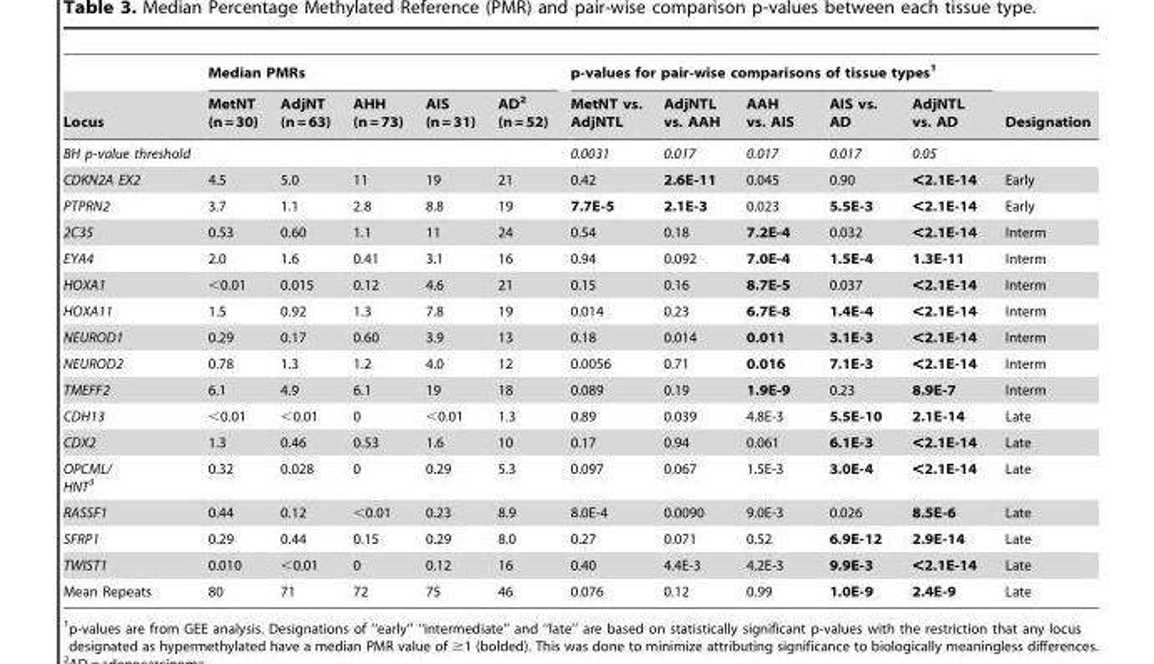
<table><thead><tr><td rowspan="2">Locus</td><td colspan="5">Median PMRs</td><td colspan="5">p-values for pair-wise comparisons of tissue types<sup>1</sup></td><td rowspan="2">Designation</td></tr><tr><td>MetNT (n = 30)</td><td>AdjNT (n = 63)</td><td>AHH (n = 73)</td><td>AIS (n = 31)</td><td>AD<sup>2</sup> (n = 52)</td><td>MetNT vs. AdjNTL</td><td>AdjNTL vs. AAH</td><td>AAH vs. AIS</td><td>AIS vs. AD</td><td>AdjNTL vs. AD</td></tr></thead><tbody><tr><td>BH p-value threshold</td><td></td><td></td><td></td><td></td><td></td><td>0.0031</td><td>0.017</td><td>0.017</td><td>0.017</td><td>0.05</td><td></td></tr><tr><td>CDKN2A EX2</td><td>4.5</td><td>5.0</td><td>11</td><td>19</td><td>21</td><td>0.42</td><td>2.6E-11</td><td>0.045</td><td>0.90</td><td>&lt;2.1E-14</td><td>Early</td></tr><tr><td>PTPRN2</td><td>3.7</td><td>1.1</td><td>2.8</td><td>8.8</td><td>19</td><td>7.7E-5</td><td>2.1E-3</td><td>0.023</td><td>5.5E-3</td><td>&lt;2.1E-14</td><td>Early</td></tr><tr><td>2C35</td><td>0.53</td><td>0.60</td><td>1.1</td><td>11</td><td>24</td><td>0.54</td><td>0.18</td><td>7.2E-4</td><td>0.032</td><td>&lt;2.1E-14</td><td>Interm</td></tr><tr><td>EYA4</td><td>2.0</td><td>1.6</td><td>0.41</td><td>3.1</td><td>16</td><td>0.94</td><td>0.092</td><td>7.0E-4</td><td>1.5E-4</td><td>1.3E-11</td><td>Interm</td></tr><tr><td>HOXA1</td><td>&lt;0.01</td><td>0.015</td><td>0.12</td><td>4.6</td><td>21</td><td>0.15</td><td>0.16</td><td>8.7E-5</td><td>0.037</td><td>&lt;2.1E-14</td><td>Interm</td></tr><tr><td>HOXA11</td><td>1.5</td><td>0.92</td><td>1.3</td><td>7.8</td><td>19</td><td>0.014</td><td>0.23</td><td>6.7E-8</td><td>1.4E-4</td><td>&lt;2.1E-14</td><td>Interm</td></tr><tr><td>NEUROD1</td><td>0.29</td><td>0.17</td><td>0.60</td><td>3.9</td><td>13</td><td>0.18</td><td>0.014</td><td>0.011</td><td>3.1E-3</td><td>&lt;2.1E-14</td><td>Interm</td></tr><tr><td>NEUROD2</td><td>0.78</td><td>1.3</td><td>1.2</td><td>4.0</td><td>12</td><td>0.0056</td><td>0.71</td><td>0.016</td><td>7.1E-3</td><td>&lt;2.1E-14</td><td>Interm</td></tr><tr><td>TMEFF2</td><td>6.1</td><td>4.9</td><td>6.1</td><td>19</td><td>18</td><td>0.089</td><td>0.19</td><td>1.9E-9</td><td>0.23</td><td>8.9E-7</td><td>Interm</td></tr><tr><td>CDH13</td><td>&lt;0.01</td><td>&lt;0.01</td><td>0</td><td>&lt;0.01</td><td>1.3</td><td>0.89</td><td>0.039</td><td>4.8E-3</td><td>5.5E-10</td><td>2.1E-14</td><td>Late</td></tr><tr><td>CDX2</td><td>1.3</td><td>0.46</td><td>0.53</td><td>1.6</td><td>10</td><td>0.17</td><td>0.94</td><td>0.061</td><td>6.1E-3</td><td>&lt;2.1E-14</td><td>Late</td></tr><tr><td>OPCML/ HNT3</td><td>0.32</td><td>0.028</td><td>0</td><td>0.29</td><td>5.3</td><td>0.097</td><td>0.067</td><td>1.5E-3</td><td>3.0E-4</td><td>&lt;2.1E-14</td><td>Late</td></tr><tr><td>RASSF1</td><td>0.44</td><td>0.12</td><td>&lt;0.01</td><td>0.23</td><td>8.9</td><td>8.0E-4</td><td>0.0090</td><td>9.0E-3</td><td>0.026</td><td>8.5E-6</td><td>Late</td></tr><tr><td>SFRP1</td><td>0.29</td><td>0.44</td><td>0.15</td><td>0.29</td><td>8.0</td><td>0.27</td><td>0.071</td><td>0.52</td><td>6.9E-12</td><td>2.9E-14</td><td>Late</td></tr><tr><td>TWIST1</td><td>0.010</td><td>&lt;0.01</td><td>0</td><td>0.12</td><td>16</td><td>0.40</td><td>4.4E-3</td><td>4.2E-3</td><td>9.9E-3</td><td>&lt;2.1E-14</td><td>Late</td></tr><tr><td>Mean Repeats</td><td>80</td><td>71</td><td>72</td><td>75</td><td>46</td><td>0.076</td><td>0.12</td><td>0.99</td><td>1.0E-9</td><td>2.4E-9</td><td>Late</td></tr></tbody></table>